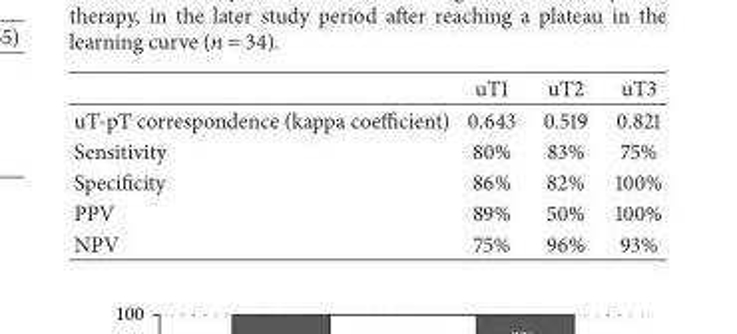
<table><thead><tr><td></td><td>uT1</td><td>uT2</td><td>uT3</td></tr></thead><tbody><tr><td>uT-pT correspondence (kappa coefficient)</td><td>0.643</td><td>0.519</td><td>0.821</td></tr><tr><td>Sensitivity</td><td>80%</td><td>83%</td><td>75%</td></tr><tr><td>Specificity</td><td>86%</td><td>82%</td><td>100%</td></tr><tr><td>PPV</td><td>89%</td><td>50%</td><td>100%</td></tr><tr><td>NPV</td><td>75%</td><td>96%</td><td>93%</td></tr></tbody></table>